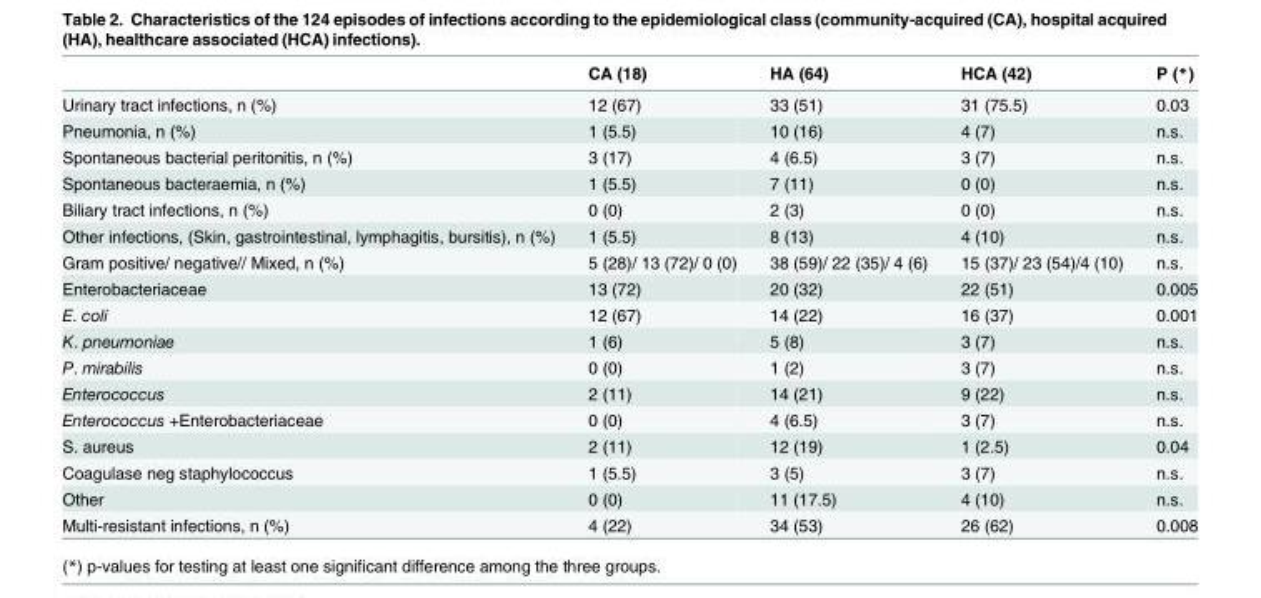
<table><thead><tr><td></td><td>CA (18)</td><td>HA (64)</td><td>HCA (42)</td><td>P (*)</td></tr></thead><tbody><tr><td>Urinary tract infections, n (%)</td><td>12 (67)</td><td>33 (51)</td><td>31 (75.5)</td><td>0.03</td></tr><tr><td>Pneumonia, n (%)</td><td>1 (5.5)</td><td>10 (16)</td><td>4 (7)</td><td>n.s.</td></tr><tr><td>Spontaneous bacterial peritonitis, n (%)</td><td>3 (17)</td><td>4 (6.5)</td><td>3 (7)</td><td>n.s.</td></tr><tr><td>Spontaneous bacteraemia, n (%)</td><td>1 (5.5)</td><td>7 (11)</td><td>0 (0)</td><td>n.s.</td></tr><tr><td>Biliary tract infections, n (%)</td><td>0 (0)</td><td>2 (3)</td><td>0 (0)</td><td>n.s.</td></tr><tr><td>Other infections, (Skin, gastrointestinal, lymphagitis, bursitis), n (%)</td><td>1 (5.5)</td><td>8 (13)</td><td>4 (10)</td><td>n.s.</td></tr><tr><td>Gram positive/ negative// Mixed, n (%)</td><td>5 (28)/ 13 (72)/ 0 (0)</td><td>38 (59)/ 22 (35)/ 4 (6)</td><td>15 (37)/ 23 (54)/4 (10)</td><td>n.s.</td></tr><tr><td>Enterobacteriaceae</td><td>13 (72)</td><td>20 (32)</td><td>22 (51)</td><td>0.005</td></tr><tr><td>E. coli</td><td>12 (67)</td><td>14 (22)</td><td>16 (37)</td><td>0.001</td></tr><tr><td>K. pneumoniae</td><td>1 (6)</td><td>5 (8)</td><td>3 (7)</td><td>n.s.</td></tr><tr><td>P. mirabilis</td><td>0 (0)</td><td>1 (2)</td><td>3 (7)</td><td>n.s.</td></tr><tr><td>Enterococcus</td><td>2 (11)</td><td>14 (21)</td><td>9 (22)</td><td>n.s.</td></tr><tr><td>Enterococcus +Enterobacteriaceae</td><td>0 (0)</td><td>4 (6.5)</td><td>3 (7)</td><td>n.s.</td></tr><tr><td>S. aureus</td><td>2 (11)</td><td>12 (19)</td><td>1 (2.5)</td><td>0.04</td></tr><tr><td>Coagulase neg staphylococcus</td><td>1 (5.5)</td><td>3 (5)</td><td>3 (7)</td><td>n.s.</td></tr><tr><td>Other</td><td>0 (0)</td><td>11 (17.5)</td><td>4 (10)</td><td>n.s.</td></tr><tr><td>Multi-resistant infections, n (%)</td><td>4 (22)</td><td>34 (53)</td><td>26 (62)</td><td>0.008</td></tr></tbody></table>